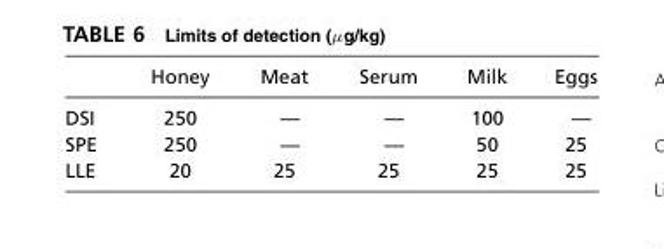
<table><thead><tr><td></td><td>Honey</td><td>Meat</td><td>Serum</td><td>Milk</td><td>Eggs</td></tr></thead><tbody><tr><td>DSI</td><td>250</td><td>—</td><td>—</td><td>100</td><td>—</td></tr><tr><td>SPE</td><td>250</td><td>—</td><td>—</td><td>50</td><td>25</td></tr><tr><td>LLE</td><td>20</td><td>25</td><td>25</td><td>25</td><td>25</td></tr></tbody></table>